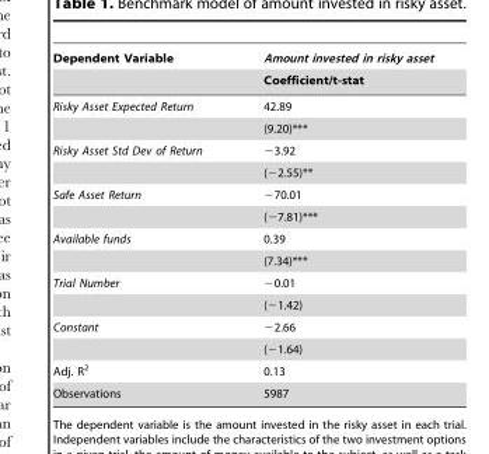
<table><thead><tr><td rowspan="2">Dependent Variable</td><td rowspan="2">Amount invested in risky asset Coefficient/t-stat</td></tr><tr></tr></thead><tbody><tr><td rowspan="2">Risky Asset Expected Return</td><td>42.89</td></tr><tr><td>(9.20)***</td></tr><tr><td rowspan="2">Risky Asset Std Dev of Return</td><td>−3.92</td></tr><tr><td>(−2.55)**</td></tr><tr><td rowspan="2">Safe Asset Return</td><td>−70.01</td></tr><tr><td>(−7.81)***</td></tr><tr><td rowspan="2">Available funds</td><td>0.39</td></tr><tr><td>(7.34)***</td></tr><tr><td rowspan="2">Trial Number</td><td>−0.01</td></tr><tr><td>(−1.42)</td></tr><tr><td rowspan="2">Constant</td><td>−2.66</td></tr><tr><td>(−1.64)</td></tr><tr><td>Adj. R<sup>2</sup></td><td>0.13</td></tr><tr><td>Observations</td><td>5987</td></tr></tbody></table>